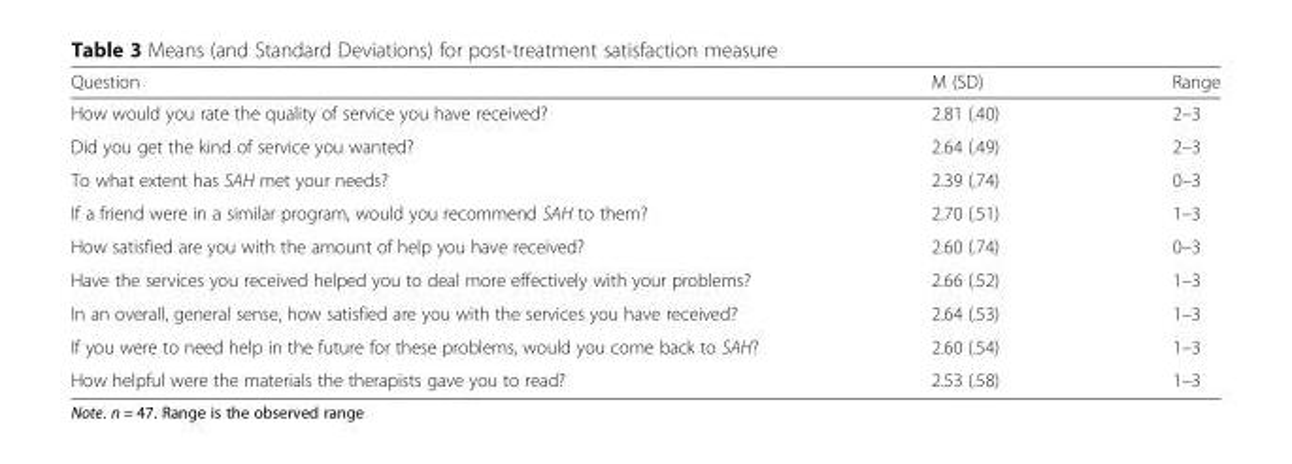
<table><thead><tr><td>Question</td><td>M (SD)</td><td>Range</td></tr></thead><tbody><tr><td>How would you rate the quality of service you have received?</td><td>2.81 (.40)</td><td>2–3</td></tr><tr><td>Did you get the kind of service you wanted?</td><td>2.64 (.49)</td><td>2–3</td></tr><tr><td>To what extent has SAH met your needs?</td><td>2.39 (.74)</td><td>0–3</td></tr><tr><td>If a friend were in a similar program, would you recommend SAH to them?</td><td>2.70 (.51)</td><td>1–3</td></tr><tr><td>How satisfied are you with the amount of help you have received?</td><td>2.60 (.74)</td><td>0–3</td></tr><tr><td>Have the services you received helped you to deal more effectively with your problems?</td><td>2.66 (.52)</td><td>1–3</td></tr><tr><td>In an overall, general sense, how satisfied are you with the services you have received?</td><td>2.64 (.53)</td><td>1–3</td></tr><tr><td>If you were to need help in the future for these problems, would you come back to SAH?</td><td>2.60 (.54)</td><td>1–3</td></tr><tr><td>How helpful were the materials the therapists gave you to read?</td><td>2.53 (.58)</td><td>1–3</td></tr></tbody></table>